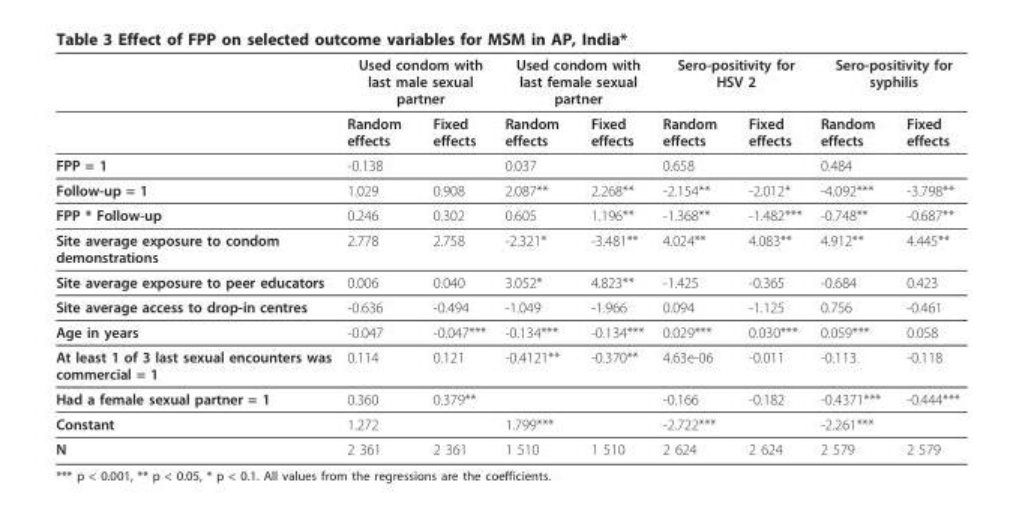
<table><thead><tr><td rowspan="2"></td><td colspan="2">Used condom with last male sexual partner</td><td colspan="2">Used condom with last female sexual partner</td><td colspan="2">Sero-positivity for HSV 2</td><td colspan="2">Sero-positivity for syphilis</td></tr><tr><td>Random effects</td><td>Fixed effects</td><td>Random effects</td><td>Fixed effects</td><td>Random effects</td><td>Fixed effects</td><td>Random effects</td><td>Fixed effects</td></tr></thead><tbody><tr><td>FPP = 1</td><td>-0.138</td><td></td><td>0.037</td><td></td><td>0.658</td><td></td><td>0.484</td><td></td></tr><tr><td>Follow-up = 1</td><td>1.029</td><td>0.908</td><td>2.087**</td><td>2.268**</td><td>-2.154**</td><td>-2.012*</td><td>-4.092***</td><td>-3.798**</td></tr><tr><td>FPP * Follow-up</td><td>0.246</td><td>0.302</td><td>0.605</td><td>1.196**</td><td>-1.368**</td><td>-1.482***</td><td>-0.748**</td><td>-0.687**</td></tr><tr><td>Site average exposure to condom demonstrations</td><td>2.778</td><td>2.758</td><td>-2.321*</td><td>-3.481**</td><td>4.024**</td><td>4.083**</td><td>4.912**</td><td>4.445**</td></tr><tr><td>Site average exposure to peer educators</td><td>0.006</td><td>0.040</td><td>3.052*</td><td>4.823**</td><td>-1.425</td><td>-0.365</td><td>-0.684</td><td>0.423</td></tr><tr><td>Site average access to drop-in centres</td><td>-0.636</td><td>-0.494</td><td>-1.049</td><td>-1.966</td><td>0.094</td><td>-1.125</td><td>0.756</td><td>-0.461</td></tr><tr><td>Age in years</td><td>-0.047</td><td>-0.047***</td><td>-0.134***</td><td>-0.134***</td><td>0.029***</td><td>0.030***</td><td>0.059***</td><td>0.058</td></tr><tr><td>At least 1 of 3 last sexual encounters was commercial = 1</td><td>0.114</td><td>0.121</td><td>-0.4121**</td><td>-0.370**</td><td>4.63e-06</td><td>-0.011</td><td>-0.113</td><td>-0.118</td></tr><tr><td>Had a female sexual partner = 1</td><td>0.360</td><td>0.379**</td><td></td><td></td><td>-0.166</td><td>-0.182</td><td>-0.4371***</td><td>-0.444***</td></tr><tr><td>Constant</td><td>1.272</td><td></td><td>1.799***</td><td></td><td>-2.722***</td><td></td><td>-2.261***</td><td></td></tr><tr><td>N</td><td>2 361</td><td>2 361</td><td>1 510</td><td>1 510</td><td>2 624</td><td>2 624</td><td>2 579</td><td>2 579</td></tr></tbody></table>